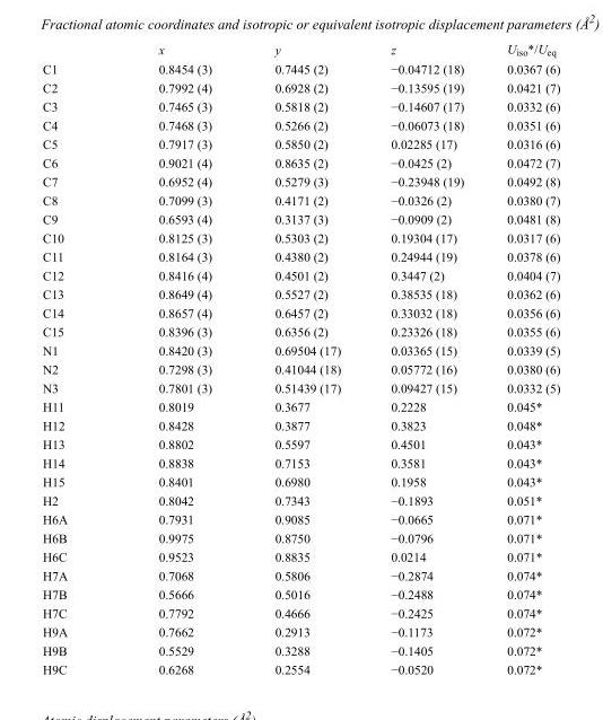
<table><thead><tr><td></td><td>x</td><td>y</td><td>z</td><td>U<sub>iso</sub>*/U<sub>eq</sub></td></tr></thead><tbody><tr><td>C1</td><td>0.8454 (3)</td><td>0.7445 (2)</td><td>−0.04712 (18)</td><td>0.0367 (6)</td></tr><tr><td>C2</td><td>0.7992 (4)</td><td>0.6928 (2)</td><td>−0.13595 (19)</td><td>0.0421 (7)</td></tr><tr><td>C3</td><td>0.7465 (3)</td><td>0.5818 (2)</td><td>−0.14607 (17)</td><td>0.0332 (6)</td></tr><tr><td>C4</td><td>0.7468 (3)</td><td>0.5266 (2)</td><td>−0.06073 (18)</td><td>0.0351 (6)</td></tr><tr><td>C5</td><td>0.7917 (3)</td><td>0.5850 (2)</td><td>0.02285 (17)</td><td>0.0316 (6)</td></tr><tr><td>C6</td><td>0.9021 (4)</td><td>0.8635 (2)</td><td>−0.0425 (2)</td><td>0.0472 (7)</td></tr><tr><td>C7</td><td>0.6952 (4)</td><td>0.5279 (3)</td><td>−0.23948 (19)</td><td>0.0492 (8)</td></tr><tr><td>C8</td><td>0.7099 (3)</td><td>0.4171 (2)</td><td>−0.0326 (2)</td><td>0.0380 (7)</td></tr><tr><td>C9</td><td>0.6593 (4)</td><td>0.3137 (3)</td><td>−0.0909 (2)</td><td>0.0481 (8)</td></tr><tr><td>C10</td><td>0.8125 (3)</td><td>0.5303 (2)</td><td>0.19304 (17)</td><td>0.0317 (6)</td></tr><tr><td>C11</td><td>0.8164 (3)</td><td>0.4380 (2)</td><td>0.24944 (19)</td><td>0.0378 (6)</td></tr><tr><td>C12</td><td>0.8416 (4)</td><td>0.4501 (2)</td><td>0.3447 (2)</td><td>0.0404 (7)</td></tr><tr><td>C13</td><td>0.8649 (4)</td><td>0.5527 (2)</td><td>0.38535 (18)</td><td>0.0362 (6)</td></tr><tr><td>C14</td><td>0.8657 (4)</td><td>0.6457 (2)</td><td>0.33032 (18)</td><td>0.0356 (6)</td></tr><tr><td>C15</td><td>0.8396 (3)</td><td>0.6356 (2)</td><td>0.23326 (18)</td><td>0.0355 (6)</td></tr><tr><td>N1</td><td>0.8420 (3)</td><td>0.69504 (17)</td><td>0.03365 (15)</td><td>0.0339 (5)</td></tr><tr><td>N2</td><td>0.7298 (3)</td><td>0.41044 (18)</td><td>0.05772 (16)</td><td>0.0380 (6)</td></tr><tr><td>N3</td><td>0.7801 (3)</td><td>0.51439 (17)</td><td>0.09427 (15)</td><td>0.0332 (5)</td></tr><tr><td>H11</td><td>0.8019</td><td>0.3677</td><td>0.2228</td><td>0.045*</td></tr><tr><td>H12</td><td>0.8428</td><td>0.3877</td><td>0.3823</td><td>0.048*</td></tr><tr><td>H13</td><td>0.8802</td><td>0.5597</td><td>0.4501</td><td>0.043*</td></tr><tr><td>H14</td><td>0.8838</td><td>0.7153</td><td>0.3581</td><td>0.043*</td></tr><tr><td>H15</td><td>0.8401</td><td>0.6980</td><td>0.1958</td><td>0.043*</td></tr><tr><td>H2</td><td>0.8042</td><td>0.7343</td><td>−0.1893</td><td>0.051*</td></tr><tr><td>H6A</td><td>0.7931</td><td>0.9085</td><td>−0.0665</td><td>0.071*</td></tr><tr><td>H6B</td><td>0.9975</td><td>0.8750</td><td>−0.0796</td><td>0.071*</td></tr><tr><td>H6C</td><td>0.9523</td><td>0.8835</td><td>0.0214</td><td>0.071*</td></tr><tr><td>H7A</td><td>0.7068</td><td>0.5806</td><td>−0.2874</td><td>0.074*</td></tr><tr><td>H7B</td><td>0.5666</td><td>0.5016</td><td>−0.2488</td><td>0.074*</td></tr><tr><td>H7C</td><td>0.7792</td><td>0.4666</td><td>−0.2425</td><td>0.074*</td></tr><tr><td>H9A</td><td>0.7662</td><td>0.2913</td><td>−0.1173</td><td>0.072*</td></tr><tr><td>H9B</td><td>0.5529</td><td>0.3288</td><td>−0.1405</td><td>0.072*</td></tr><tr><td>H9C</td><td>0.6268</td><td>0.2554</td><td>−0.0520</td><td>0.072*</td></tr></tbody></table>